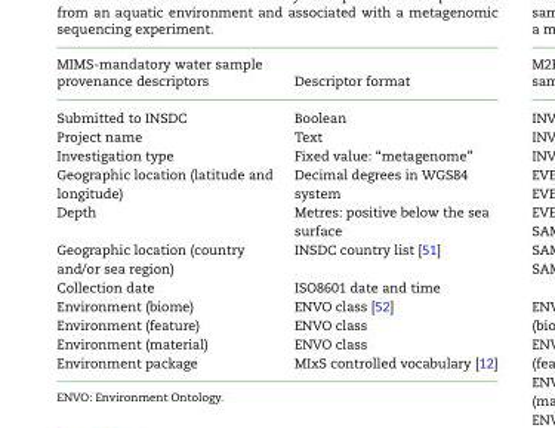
<table><thead><tr><td>MIMS-mandatory water sample provenance descriptors</td><td>Descriptor format</td></tr></thead><tbody><tr><td>Submitted to INSDC</td><td>Boolean</td></tr><tr><td>Project name</td><td>Text</td></tr><tr><td>Investigation type</td><td>Fixed value: “metagenome”</td></tr><tr><td>Geographic location (latitude and longitude)</td><td>Decimal degrees in WGS84 system</td></tr><tr><td>Depth</td><td>Metres: positive below the sea surface</td></tr><tr><td>Geographic location (country and/or sea region)</td><td>INSDC country list [51]</td></tr><tr><td>Collection date</td><td>ISO8601 date and time</td></tr><tr><td>Environment (biome)</td><td>ENVO class [52]</td></tr><tr><td>Environment (feature)</td><td>ENVO class</td></tr><tr><td>Environment (material)</td><td>ENVO class</td></tr><tr><td>Environment package</td><td>MIxS controlled vocabulary [12]</td></tr></tbody></table>